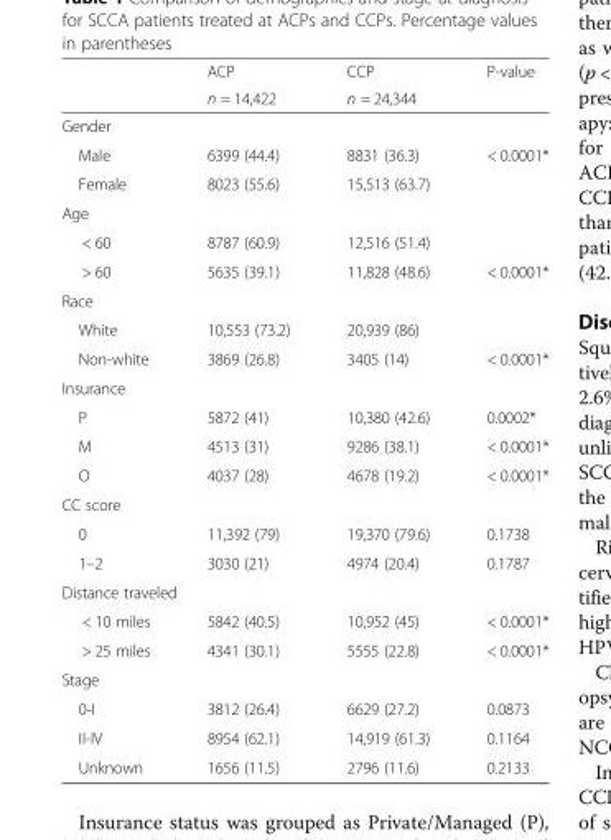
<table><thead><tr><td rowspan="2"></td><td rowspan="2">ACP n = 14,422</td><td rowspan="2">CCP n = 24,344</td><td rowspan="2">P-value</td></tr><tr></tr></thead><tbody><tr><td colspan="4">Gender</td></tr><tr><td>Male</td><td>6399 (44.4)</td><td>8831 (36.3)</td><td>&lt; 0.0001*</td></tr><tr><td>Female</td><td>8023 (55.6)</td><td>15,513 (63.7)</td><td></td></tr><tr><td colspan="4">Age</td></tr><tr><td>&lt; 60</td><td>8787 (60.9)</td><td>12,516 (51.4)</td><td></td></tr><tr><td>&gt; 60</td><td>5635 (39.1)</td><td>11,828 (48.6)</td><td>&lt; 0.0001*</td></tr><tr><td colspan="4">Race</td></tr><tr><td>White</td><td>10,553 (73.2)</td><td>20,939 (86)</td><td></td></tr><tr><td>Non-white</td><td>3869 (26.8)</td><td>3405 (14)</td><td>&lt; 0.0001*</td></tr><tr><td colspan="4">Insurance</td></tr><tr><td>P</td><td>5872 (41)</td><td>10,380 (42.6)</td><td>0.0002*</td></tr><tr><td>M</td><td>4513 (31)</td><td>9286 (38.1)</td><td>&lt; 0.0001*</td></tr><tr><td>O</td><td>4037 (28)</td><td>4678 (19.2)</td><td>&lt; 0.0001*</td></tr><tr><td colspan="4">CC score</td></tr><tr><td>0</td><td>11,392 (79)</td><td>19,370 (79.6)</td><td>0.1738</td></tr><tr><td>1–2</td><td>3030 (21)</td><td>4974 (20.4)</td><td>0.1787</td></tr><tr><td colspan="4">Distance traveled</td></tr><tr><td>&lt; 10 miles</td><td>5842 (40.5)</td><td>10,952 (45)</td><td>&lt; 0.0001*</td></tr><tr><td>&gt; 25 miles</td><td>4341 (30.1)</td><td>5555 (22.8)</td><td>&lt; 0.0001*</td></tr><tr><td colspan="4">Stage</td></tr><tr><td>0-I</td><td>3812 (26.4)</td><td>6629 (27.2)</td><td>0.0873</td></tr><tr><td>II-IV</td><td>8954 (62.1)</td><td>14,919 (61.3)</td><td>0.1164</td></tr><tr><td>Unknown</td><td>1656 (11.5)</td><td>2796 (11.6)</td><td>0.2133</td></tr></tbody></table>